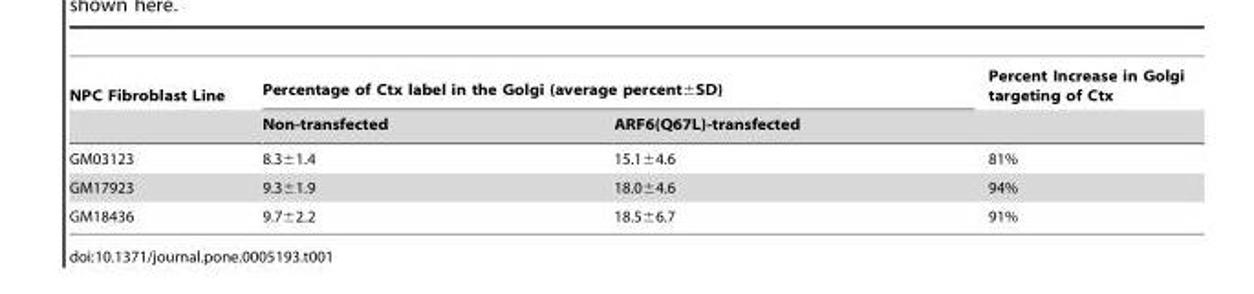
<table><thead><tr><td rowspan="2">NPC Fibroblast Line</td><td colspan="2">Percentage of Ctx label in the Golgi (average percent±SD)</td><td rowspan="2">Percent Increase in Golgi targeting of Ctx</td></tr><tr><td>Non-transfected</td><td>ARF6(Q67L)-transfected</td></tr></thead><tbody><tr><td>GM03123</td><td>8.3±1.4</td><td>15.1±4.6</td><td>81%</td></tr><tr><td>GM17923</td><td>9.3±1.9</td><td>18.0±4.6</td><td>94%</td></tr><tr><td>GM18436</td><td>9.7±2.2</td><td>18.5±6.7</td><td>91%</td></tr></tbody></table>